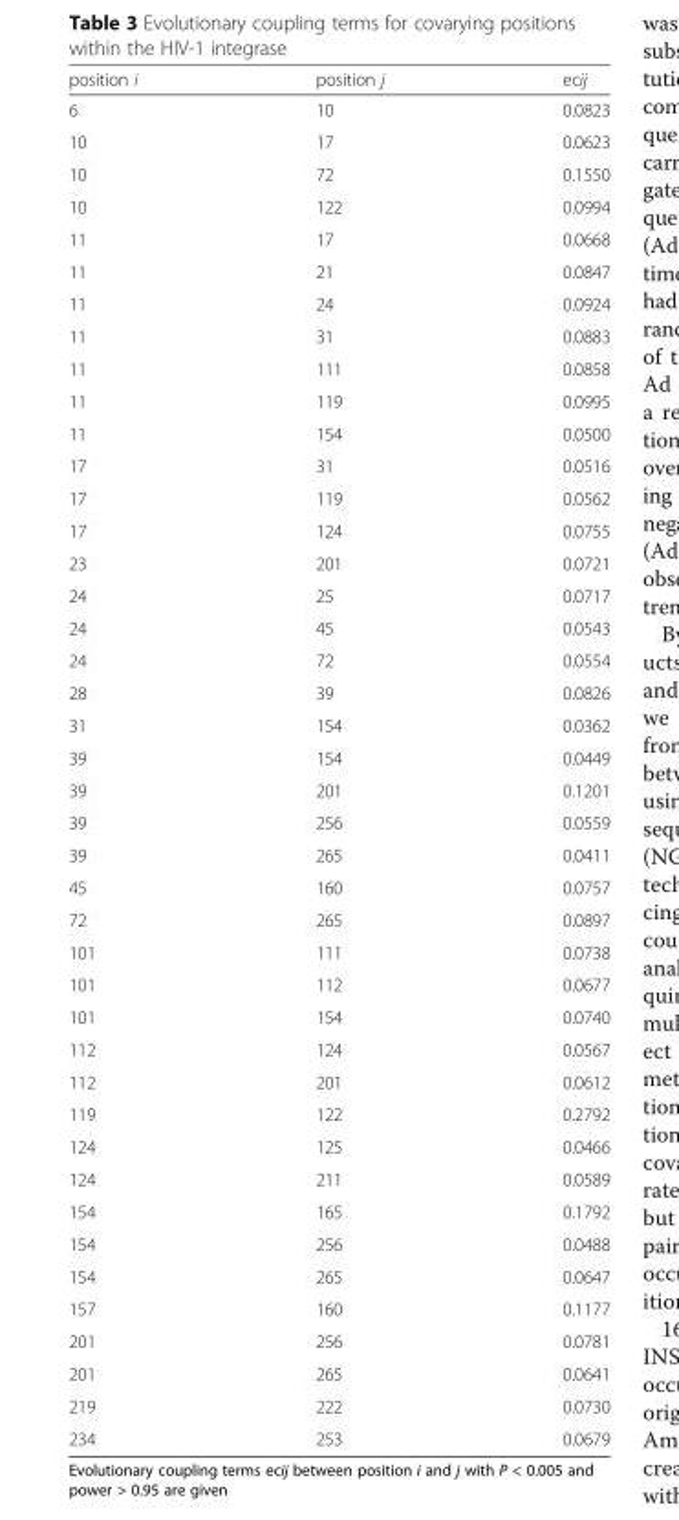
<table><thead><tr><td>position i</td><td>position j</td><td>ecij</td></tr></thead><tbody><tr><td>6</td><td>10</td><td>0.0823</td></tr><tr><td>10</td><td>17</td><td>0.0623</td></tr><tr><td>10</td><td>72</td><td>0.1550</td></tr><tr><td>10</td><td>122</td><td>0.0994</td></tr><tr><td>11</td><td>17</td><td>0.0668</td></tr><tr><td>11</td><td>21</td><td>0.0847</td></tr><tr><td>11</td><td>24</td><td>0.0924</td></tr><tr><td>11</td><td>31</td><td>0.0883</td></tr><tr><td>11</td><td>111</td><td>0.0858</td></tr><tr><td>11</td><td>119</td><td>0.0995</td></tr><tr><td>11</td><td>154</td><td>0.0500</td></tr><tr><td>17</td><td>31</td><td>0.0516</td></tr><tr><td>17</td><td>119</td><td>0.0562</td></tr><tr><td>17</td><td>124</td><td>0.0755</td></tr><tr><td>23</td><td>201</td><td>0.0721</td></tr><tr><td>24</td><td>25</td><td>0.0717</td></tr><tr><td>24</td><td>45</td><td>0.0543</td></tr><tr><td>24</td><td>72</td><td>0.0554</td></tr><tr><td>28</td><td>39</td><td>0.0826</td></tr><tr><td>31</td><td>154</td><td>0.0362</td></tr><tr><td>39</td><td>154</td><td>0.0449</td></tr><tr><td>39</td><td>201</td><td>0.1201</td></tr><tr><td>39</td><td>256</td><td>0.0559</td></tr><tr><td>39</td><td>265</td><td>0.0411</td></tr><tr><td>45</td><td>160</td><td>0.0757</td></tr><tr><td>72</td><td>265</td><td>0.0897</td></tr><tr><td>101</td><td>111</td><td>0.0738</td></tr><tr><td>101</td><td>112</td><td>0.0677</td></tr><tr><td>101</td><td>154</td><td>0.0740</td></tr><tr><td>112</td><td>124</td><td>0.0567</td></tr><tr><td>112</td><td>201</td><td>0.0612</td></tr><tr><td>119</td><td>122</td><td>0.2792</td></tr><tr><td>124</td><td>125</td><td>0.0466</td></tr><tr><td>124</td><td>211</td><td>0.0589</td></tr><tr><td>154</td><td>165</td><td>0.1792</td></tr><tr><td>154</td><td>256</td><td>0.0488</td></tr><tr><td>154</td><td>265</td><td>0.0647</td></tr><tr><td>157</td><td>160</td><td>0.1177</td></tr><tr><td>201</td><td>256</td><td>0.0781</td></tr><tr><td>201</td><td>265</td><td>0.0641</td></tr><tr><td>219</td><td>222</td><td>0.0730</td></tr><tr><td>234</td><td>253</td><td>0.0679</td></tr></tbody></table>